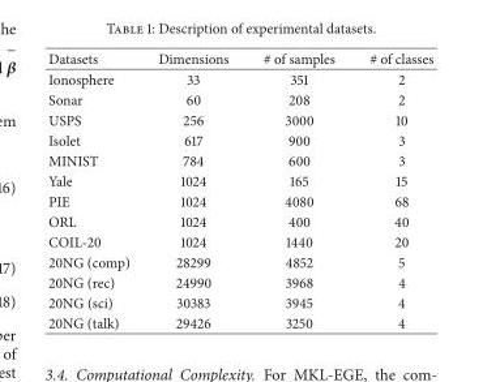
<table><thead><tr><td>Datasets</td><td>Dimensions</td><td># of samples</td><td># of classes</td></tr></thead><tbody><tr><td>Ionosphere</td><td>33</td><td>351</td><td>2</td></tr><tr><td>Sonar</td><td>60</td><td>208</td><td>2</td></tr><tr><td>USPS</td><td>256</td><td>3000</td><td>10</td></tr><tr><td>Isolet</td><td>617</td><td>900</td><td>3</td></tr><tr><td>MINIST</td><td>784</td><td>600</td><td>3</td></tr><tr><td>Yale</td><td>1024</td><td>165</td><td>15</td></tr><tr><td>PIE</td><td>1024</td><td>4080</td><td>68</td></tr><tr><td>ORL</td><td>1024</td><td>400</td><td>40</td></tr><tr><td>COIL-20</td><td>1024</td><td>1440</td><td>20</td></tr><tr><td>20NG (comp)</td><td>28299</td><td>4852</td><td>5</td></tr><tr><td>20NG (rec)</td><td>24990</td><td>3968</td><td>4</td></tr><tr><td>20NG (sci)</td><td>30383</td><td>3945</td><td>4</td></tr><tr><td>20NG (talk)</td><td>29426</td><td>3250</td><td>4</td></tr></tbody></table>